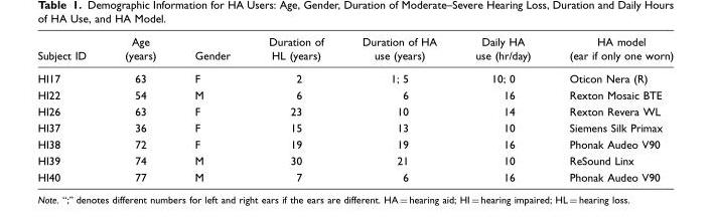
<table><thead><tr><td>Subject ID</td><td>Age (years)</td><td>Gender</td><td>Duration of HL (years)</td><td>Duration of HA use (years)</td><td>Daily HA use (hr/day)</td><td>HA model (ear if only one worn)</td></tr></thead><tbody><tr><td>HI17</td><td>63</td><td>F</td><td>2</td><td>1; 5</td><td>10; 0</td><td>Oticon Nera (R)</td></tr><tr><td>HI22</td><td>54</td><td>M</td><td>6</td><td>6</td><td>16</td><td>Rexton Mosaic BTE</td></tr><tr><td>HI26</td><td>63</td><td>F</td><td>23</td><td>10</td><td>14</td><td>Rexton Revera WL</td></tr><tr><td>HI37</td><td>36</td><td>F</td><td>15</td><td>13</td><td>10</td><td>Siemens Silk Primax</td></tr><tr><td>HI38</td><td>72</td><td>F</td><td>19</td><td>19</td><td>16</td><td>Phonak Audeo V90</td></tr><tr><td>HI39</td><td>74</td><td>M</td><td>30</td><td>21</td><td>10</td><td>ReSound Linx</td></tr><tr><td>HI40</td><td>77</td><td>M</td><td>7</td><td>6</td><td>16</td><td>Phonak Audeo V90</td></tr></tbody></table>